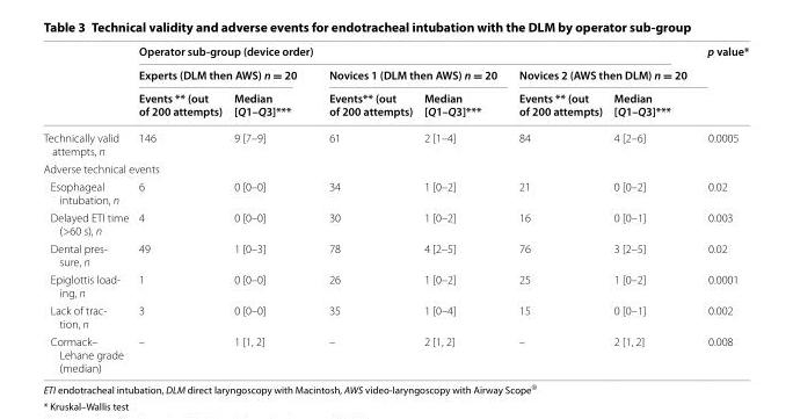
<table><thead><tr><td rowspan="3"></td><td colspan="6">Operator sub-group (device order)</td><td rowspan="3">p value*</td></tr><tr><td colspan="2">Experts (DLM then AWS) n = 20</td><td colspan="2">Novices 1 (DLM then AWS) n = 20</td><td colspan="2">Novices 2 (AWS then DLM) n = 20</td></tr><tr><td>Events ** (out of 200 attempts)</td><td>Median [Q1–Q3]***</td><td>Events** (out of 200 attempts)</td><td>Median [Q1–Q3]***</td><td>Events ** (out of 200 attempts)</td><td>Median [Q1–Q3]***</td></tr></thead><tbody><tr><td>Technically valid attempts, n</td><td>146</td><td>9 [7–9]</td><td>61</td><td>2 [1–4]</td><td>84</td><td>4 [2–6]</td><td>0.0005</td></tr><tr><td colspan="8">Adverse technical events</td></tr><tr><td>Esophageal intubation, n</td><td>6</td><td>0 [0–0]</td><td>34</td><td>1 [0–2]</td><td>21</td><td>0 [0–2]</td><td>0.02</td></tr><tr><td>Delayed ETI time (&gt;60 s), n</td><td>4</td><td>0 [0–0]</td><td>30</td><td>1 [0–2]</td><td>16</td><td>0 [0–1]</td><td>0.003</td></tr><tr><td>Dental pres‑ sure, n</td><td>49</td><td>1 [0–3]</td><td>78</td><td>4 [2–5]</td><td>76</td><td>3 [2–5]</td><td>0.02</td></tr><tr><td>Epiglottis load‑ ing, n</td><td>1</td><td>0 [0–0]</td><td>26</td><td>1 [0–2]</td><td>25</td><td>1 [0–2]</td><td>0.0001</td></tr><tr><td>Lack of trac‑ tion, n</td><td>3</td><td>0 [0–0]</td><td>35</td><td>1 [0–4]</td><td>15</td><td>0 [0–1]</td><td>0.002</td></tr><tr><td>Cormack– Lehane grade (median)</td><td>–</td><td>1 [1, 2]</td><td>–</td><td>2 [1, 2]</td><td>–</td><td>2 [1, 2]</td><td>0.008</td></tr></tbody></table>